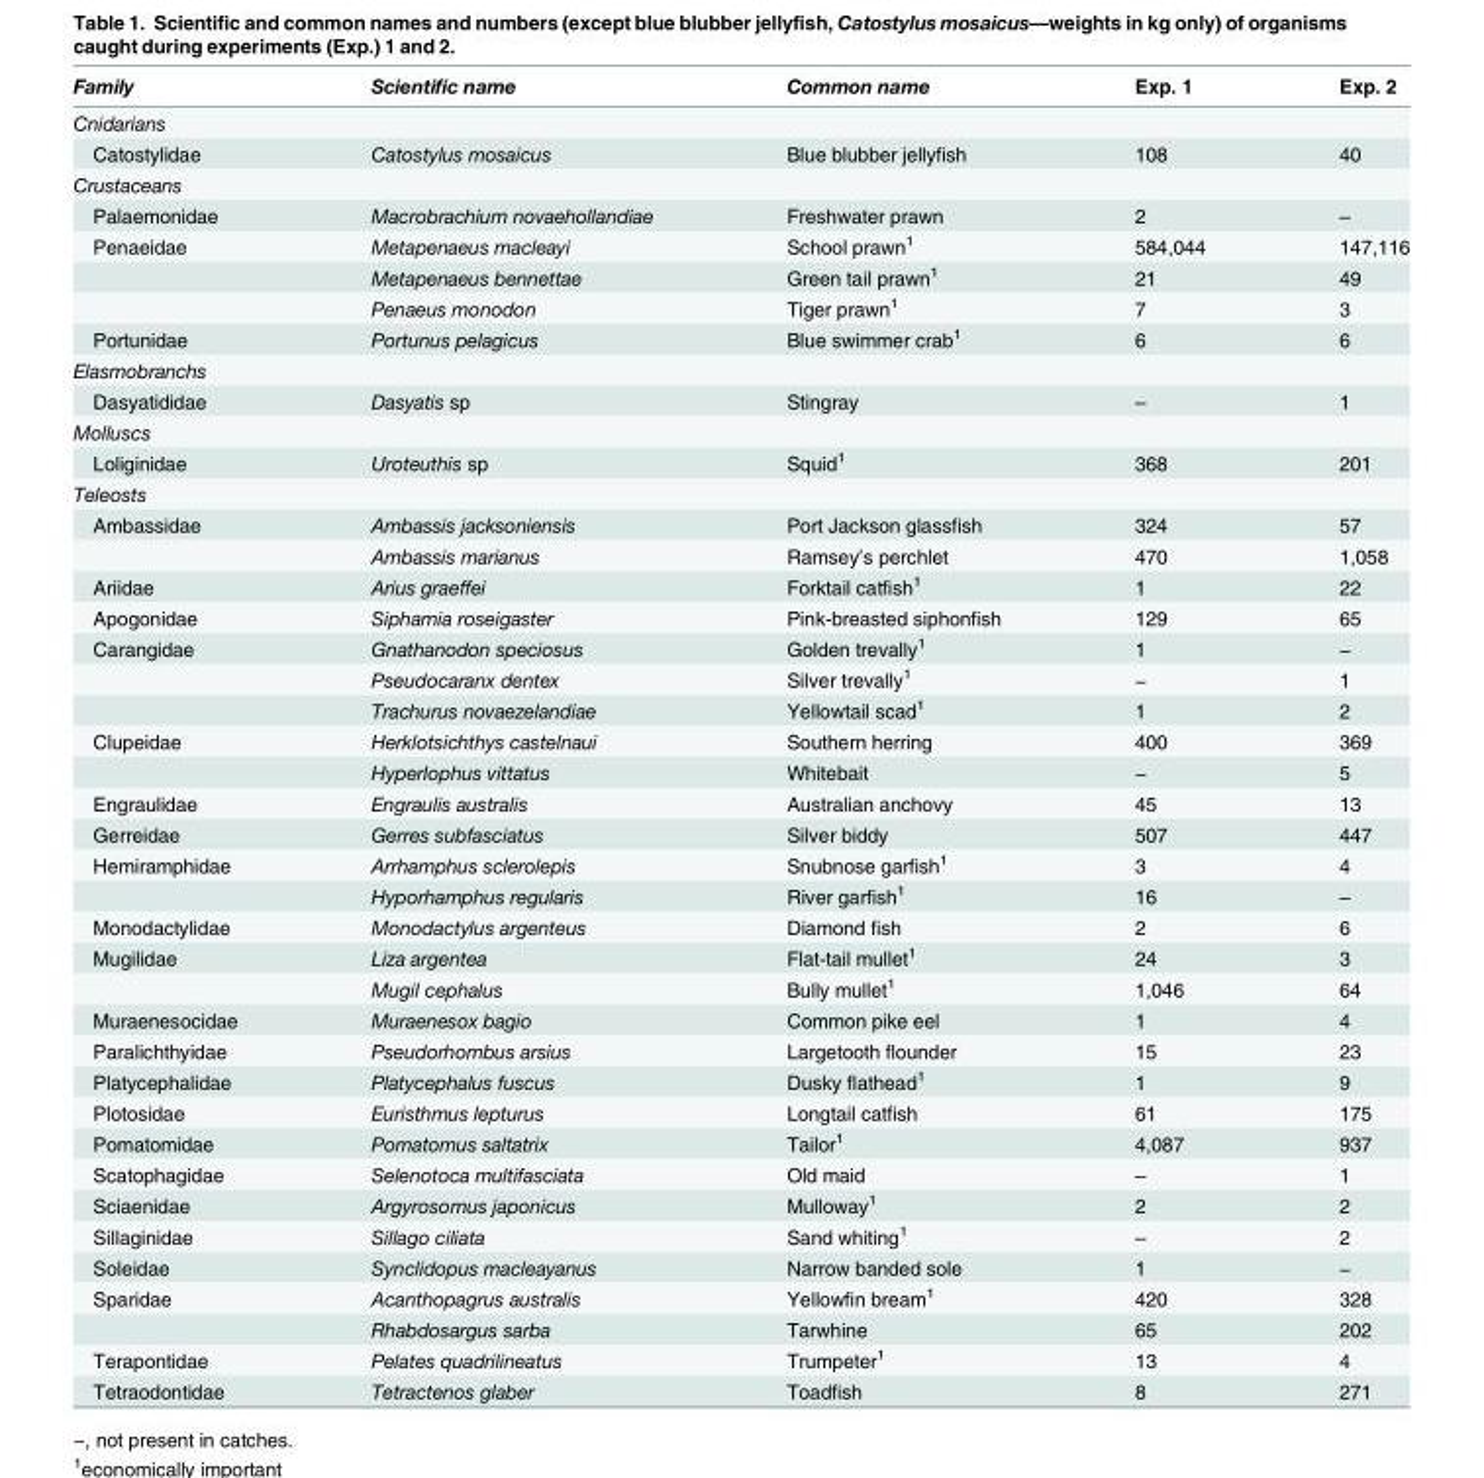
<table><thead><tr><td>Family</td><td>Scientific name</td><td>Common name</td><td>Exp. 1</td><td>Exp. 2</td></tr></thead><tbody><tr><td colspan="5">Cnidarians</td></tr><tr><td>Catostylidae</td><td>Catostylus mosaicus</td><td>Blue blubber jellyfish</td><td>108</td><td>40</td></tr><tr><td colspan="5">Crustaceans</td></tr><tr><td>Palaemonidae</td><td>Macrobrachium novaehollandiae</td><td>Freshwater prawn</td><td>2</td><td>–</td></tr><tr><td rowspan="3">Penaeidae</td><td>Metapenaeus macleayi</td><td>School prawn<sup>1</sup></td><td>584,044</td><td>147,116</td></tr><tr><td>Metapenaeus bennettae</td><td>Green tail prawn<sup>1</sup></td><td>21</td><td>49</td></tr><tr><td>Penaeus monodon</td><td>Tiger prawn<sup>1</sup></td><td>7</td><td>3</td></tr><tr><td>Portunidae</td><td>Portunus pelagicus</td><td>Blue swimmer crab<sup>1</sup></td><td>6</td><td>6</td></tr><tr><td colspan="5">Elasmobranchs</td></tr><tr><td>Dasyatididae</td><td>Dasyatis sp</td><td>Stingray</td><td>–</td><td>1</td></tr><tr><td colspan="5">Molluscs</td></tr><tr><td>Loliginidae</td><td>Uroteuthis sp</td><td>Squid<sup>1</sup></td><td>368</td><td>201</td></tr><tr><td colspan="5">Teleosts</td></tr><tr><td rowspan="2">Ambassidae</td><td>Ambassis jacksoniensis</td><td>Port Jackson glassfish</td><td>324</td><td>57</td></tr><tr><td>Ambassis marianus</td><td>Ramsey’s perchlet</td><td>470</td><td>1,058</td></tr><tr><td>Ariidae</td><td>Arius graeffei</td><td>Forktail catfish<sup>1</sup></td><td>1</td><td>22</td></tr><tr><td>Apogonidae</td><td>Siphamia roseigaster</td><td>Pink-breasted siphonfish</td><td>129</td><td>65</td></tr><tr><td rowspan="3">Carangidae</td><td>Gnathanodon speciosus</td><td>Golden trevally<sup>1</sup></td><td>1</td><td>−</td></tr><tr><td>Pseudocaranx dentex</td><td>Silver trevally<sup>1</sup></td><td>−</td><td>1</td></tr><tr><td>Trachurus novaezelandiae</td><td>Yellowtail scad<sup>1</sup></td><td>1</td><td>2</td></tr><tr><td rowspan="2">Clupeidae</td><td>Herklotsichthys castelnaui</td><td>Southern herring</td><td>400</td><td>369</td></tr><tr><td>Hyperlophus vittatus</td><td>Whitebait</td><td>−</td><td>5</td></tr><tr><td>Engraulidae</td><td>Engraulis australis</td><td>Australian anchovy</td><td>45</td><td>13</td></tr><tr><td>Gerreidae</td><td>Gerres subfasciatus</td><td>Silver biddy</td><td>507</td><td>447</td></tr><tr><td rowspan="2">Hemiramphidae</td><td>Arrhamphus sclerolepis</td><td>Snubnose garfish<sup>1</sup></td><td>3</td><td>4</td></tr><tr><td>Hyporhamphus regularis</td><td>River garfish<sup>1</sup></td><td>16</td><td>–</td></tr><tr><td>Monodactylidae</td><td>Monodactylus argenteus</td><td>Diamond fish</td><td>2</td><td>6</td></tr><tr><td rowspan="2">Mugilidae</td><td>Liza argentea</td><td>Flat-tail mullet<sup>1</sup></td><td>24</td><td>3</td></tr><tr><td>Mugil cephalus</td><td>Bully mullet<sup>1</sup></td><td>1,046</td><td>64</td></tr><tr><td>Muraenesocidae</td><td>Muraenesox bagio</td><td>Common pike eel</td><td>1</td><td>4</td></tr><tr><td>Paralichthyidae</td><td>Pseudorhombus arsius</td><td>Largetooth flounder</td><td>15</td><td>23</td></tr><tr><td>Platycephalidae</td><td>Platycephalus fuscus</td><td>Dusky flathead<sup>1</sup></td><td>1</td><td>9</td></tr><tr><td>Plotosidae</td><td>Euristhmus lepturus</td><td>Longtail catfish</td><td>61</td><td>175</td></tr><tr><td>Pomatomidae</td><td>Pomatomus saltatrix</td><td>Tailor<sup>1</sup></td><td>4,087</td><td>937</td></tr><tr><td>Scatophagidae</td><td>Selenotoca multifasciata</td><td>Old maid</td><td>–</td><td>1</td></tr><tr><td>Sciaenidae</td><td>Argyrosomus japonicus</td><td>Mulloway<sup>1</sup></td><td>2</td><td>2</td></tr><tr><td>Sillaginidae</td><td>Sillago ciliata</td><td>Sand whiting<sup>1</sup></td><td>–</td><td>2</td></tr><tr><td>Soleidae</td><td>Synclidopus macleayanus</td><td>Narrow banded sole</td><td>1</td><td>−</td></tr><tr><td rowspan="2">Sparidae</td><td>Acanthopagrus australis</td><td>Yellowfin bream<sup>1</sup></td><td>420</td><td>328</td></tr><tr><td>Rhabdosargus sarba</td><td>Tarwhine</td><td>65</td><td>202</td></tr><tr><td>Terapontidae</td><td>Pelates quadrilineatus</td><td>Trumpeter<sup>1</sup></td><td>13</td><td>4</td></tr><tr><td>Tetraodontidae</td><td>Tetractenos glaber</td><td>Toadfish</td><td>8</td><td>271</td></tr></tbody></table>